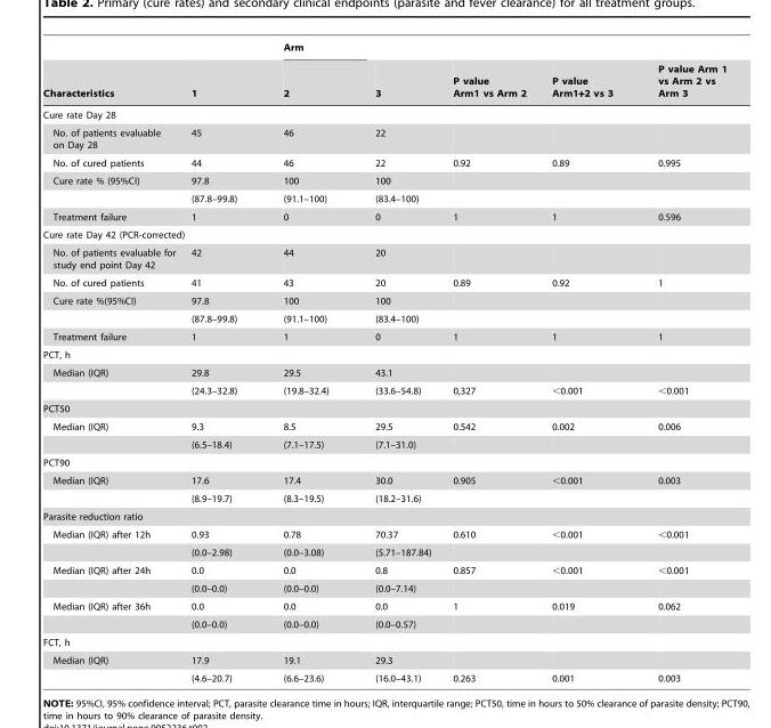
<table><thead><tr><td rowspan="2">Characteristics</td><td rowspan="2">1</td><td rowspan="2">Arm 2</td><td rowspan="2">3</td><td rowspan="2">P value Arm1 vs Arm 2</td><td rowspan="2">P value Arm1+2 vs 3</td><td rowspan="2">P value Arm 1 vs Arm 2 vs Arm 3</td></tr><tr></tr></thead><tbody><tr><td colspan="7">Cure rate Day 28</td></tr><tr><td>No. of patients evaluable on Day 28</td><td>45</td><td>46</td><td>22</td><td></td><td></td><td></td></tr><tr><td>No. of cured patients</td><td>44</td><td>46</td><td>22</td><td>0.92</td><td>0.89</td><td>0.995</td></tr><tr><td rowspan="2">Cure rate % (95%CI)</td><td>97.8</td><td>100</td><td>100</td><td></td><td></td><td></td></tr><tr><td>(87.8–99.8)</td><td>(91.1–100)</td><td>(83.4–100)</td><td></td><td></td><td></td></tr><tr><td>Treatment failure</td><td>1</td><td>0</td><td>0</td><td>1</td><td>1</td><td>0.596</td></tr><tr><td colspan="7">Cure rate Day 42 (PCR-corrected)</td></tr><tr><td>No. of patients evaluable for study end point Day 42</td><td>42</td><td>44</td><td>20</td><td></td><td></td><td></td></tr><tr><td>No. of cured patients</td><td>41</td><td>43</td><td>20</td><td>0.89</td><td>0.92</td><td>1</td></tr><tr><td rowspan="2">Cure rate %(95%CI)</td><td>97.8</td><td>100</td><td>100</td><td></td><td></td><td></td></tr><tr><td>(87.8–99.8)</td><td>(91.1–100)</td><td>(83.4–100)</td><td></td><td></td><td></td></tr><tr><td>Treatment failure</td><td>1</td><td>1</td><td>0</td><td>1</td><td>1</td><td>1</td></tr><tr><td colspan="7">PCT, h</td></tr><tr><td rowspan="2">Median (IQR)</td><td>29.8</td><td>29.5</td><td>43.1</td><td></td><td></td><td></td></tr><tr><td>(24.3–32.8)</td><td>(19.8–32.4)</td><td>(33.6–54.8)</td><td>0,327</td><td>&lt;0.001</td><td>&lt;0.001</td></tr><tr><td colspan="7">PCT50</td></tr><tr><td rowspan="2">Median (IQR)</td><td>9.3</td><td>8.5</td><td>29.5</td><td>0.542</td><td>0.002</td><td>0.006</td></tr><tr><td>(6.5–18.4)</td><td>(7.1–17.5)</td><td>(7.1–31.0)</td><td></td><td></td><td></td></tr><tr><td colspan="7">PCT90</td></tr><tr><td rowspan="2">Median (IQR)</td><td>17.6</td><td>17.4</td><td>30.0</td><td>0.905</td><td>&lt;0.001</td><td>0.003</td></tr><tr><td>(8.9–19.7)</td><td>(8.3–19.5)</td><td>(18.2–31.6)</td><td></td><td></td><td></td></tr><tr><td colspan="7">Parasite reduction ratio</td></tr><tr><td rowspan="2">Median (IQR) after 12h</td><td>0.93</td><td>0.78</td><td>70.37</td><td>0.610</td><td>&lt;0.001</td><td>&lt;0.001</td></tr><tr><td>(0.0–2.98)</td><td>(0.0–3.08)</td><td>(5.71–187.84)</td><td></td><td></td><td></td></tr><tr><td rowspan="2">Median (IQR) after 24h</td><td>0.0</td><td>0.0</td><td>0.8</td><td>0.857</td><td>&lt;0.001</td><td>&lt;0.001</td></tr><tr><td>(0.0–0.0)</td><td>(0.0–0.0)</td><td>(0.0–7.14)</td><td></td><td></td><td></td></tr><tr><td rowspan="2">Median (IQR) after 36h</td><td>0.0</td><td>0.0</td><td>0.0</td><td>1</td><td>0.019</td><td>0.062</td></tr><tr><td>(0.0–0.0)</td><td>(0.0–0.0)</td><td>(0.0–0.57)</td><td></td><td></td><td></td></tr><tr><td colspan="7">FCT, h</td></tr><tr><td rowspan="2">Median (IQR)</td><td>17.9</td><td>19.1</td><td>29.3</td><td></td><td></td><td></td></tr><tr><td>(4.6–20.7)</td><td>(6.6–23.6)</td><td>(16.0–43.1)</td><td>0.263</td><td>0.001</td><td>0.003</td></tr></tbody></table>